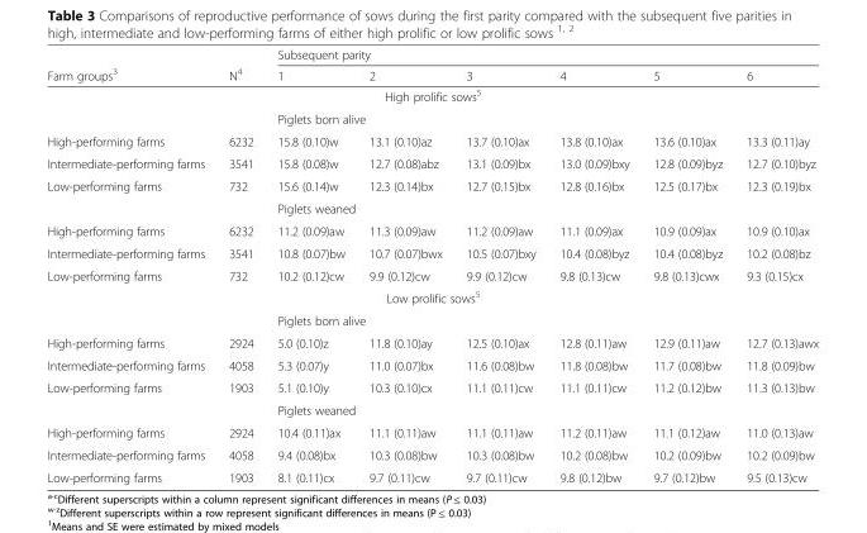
<table><thead><tr><td rowspan="2">Farm groups<sup>3</sup></td><td rowspan="2">N<sup>4</sup></td><td colspan="6">Subsequent parity</td></tr><tr><td>1</td><td>2</td><td>3</td><td>4</td><td>5</td><td>6</td></tr></thead><tbody><tr><td colspan="8">High prolific sows<sup>5</sup></td></tr><tr><td></td><td></td><td colspan="6">Piglets born alive</td></tr><tr><td>High-performing farms</td><td>6232</td><td>15.8 (0.10)w</td><td>13.1 (0.10)az</td><td>13.7 (0.10)ax</td><td>13.8 (0.10)ax</td><td>13.6 (0.10)ax</td><td>13.3 (0.11)ay</td></tr><tr><td>Intermediate-performing farms</td><td>3541</td><td>15.8 (0.08)w</td><td>12.7 (0.08)abz</td><td>13.1 (0.09)bx</td><td>13.0 (0.09)bxy</td><td>12.8 (0.09)byz</td><td>12.7 (0.10)byz</td></tr><tr><td rowspan="2">Low-performing farms</td><td>732</td><td>15.6 (0.14)w</td><td>12.3 (0.14)bx</td><td>12.7 (0.15)bx</td><td>12.8 (0.16)bx</td><td>12.5 (0.17)bx</td><td>12.3 (0.19)bx</td></tr><tr><td></td><td colspan="6">Piglets weaned</td></tr><tr><td>High-performing farms</td><td>6232</td><td>11.2 (0.09)aw</td><td>11.3 (0.09)aw</td><td>11.2 (0.09)aw</td><td>11.1 (0.09)ax</td><td>10.9 (0.09)ax</td><td>10.9 (0.10)ax</td></tr><tr><td>Intermediate-performing farms</td><td>3541</td><td>10.8 (0.07)bw</td><td>10.7 (0.07)bwx</td><td>10.5 (0.07)bxy</td><td>10.4 (0.08)byz</td><td>10.4 (0.08)byz</td><td>10.2 (0.08)bz</td></tr><tr><td>Low-performing farms</td><td>732</td><td>10.2 (0.12)cw</td><td>9.9 (0.12)cw</td><td>9.9 (0.12)cw</td><td>9.8 (0.13)cw</td><td>9.8 (0.13)cwx</td><td>9.3 (0.15)cx</td></tr><tr><td colspan="8">Low prolific sows<sup>5</sup></td></tr><tr><td></td><td></td><td colspan="6">Piglets born alive</td></tr><tr><td>High-performing farms</td><td>2924</td><td>5.0 (0.10)z</td><td>11.8 (0.10)ay</td><td>12.5 (0.10)ax</td><td>12.8 (0.11)aw</td><td>12.9 (0.11)aw</td><td>12.7 (0.13)awx</td></tr><tr><td>Intermediate-performing farms</td><td>4058</td><td>5.3 (0.07)y</td><td>11.0 (0.07)bx</td><td>11.6 (0.08)bw</td><td>11.8 (0.08)bw</td><td>11.7 (0.08)bw</td><td>11.8 (0.09)bw</td></tr><tr><td rowspan="2">Low-performing farms</td><td>1903</td><td>5.1 (0.10)y</td><td>10.3 (0.10)cx</td><td>11.1 (0.11)cw</td><td>11.1 (0.11)cw</td><td>11.2 (0.12)bw</td><td>11.3 (0.13)bw</td></tr><tr><td></td><td colspan="6">Piglets weaned</td></tr><tr><td>High-performing farms</td><td>2924</td><td>10.4 (0.11)ax</td><td>11.1 (0.11)aw</td><td>11.1 (0.11)aw</td><td>11.2 (0.11)aw</td><td>11.1 (0.12)aw</td><td>11.0 (0.13)aw</td></tr><tr><td>Intermediate-performing farms</td><td>4058</td><td>9.4 (0.08)bx</td><td>10.3 (0.08)bw</td><td>10.3 (0.08)bw</td><td>10.2 (0.08)bw</td><td>10.2 (0.09)bw</td><td>10.2 (0.09)bw</td></tr><tr><td>Low-performing farms</td><td>1903</td><td>8.1 (0.11)cx</td><td>9.7 (0.11)cw</td><td>9.7 (0.11)cw</td><td>9.8 (0.12)bw</td><td>9.7 (0.12)bw</td><td>9.5 (0.13)cw</td></tr></tbody></table>